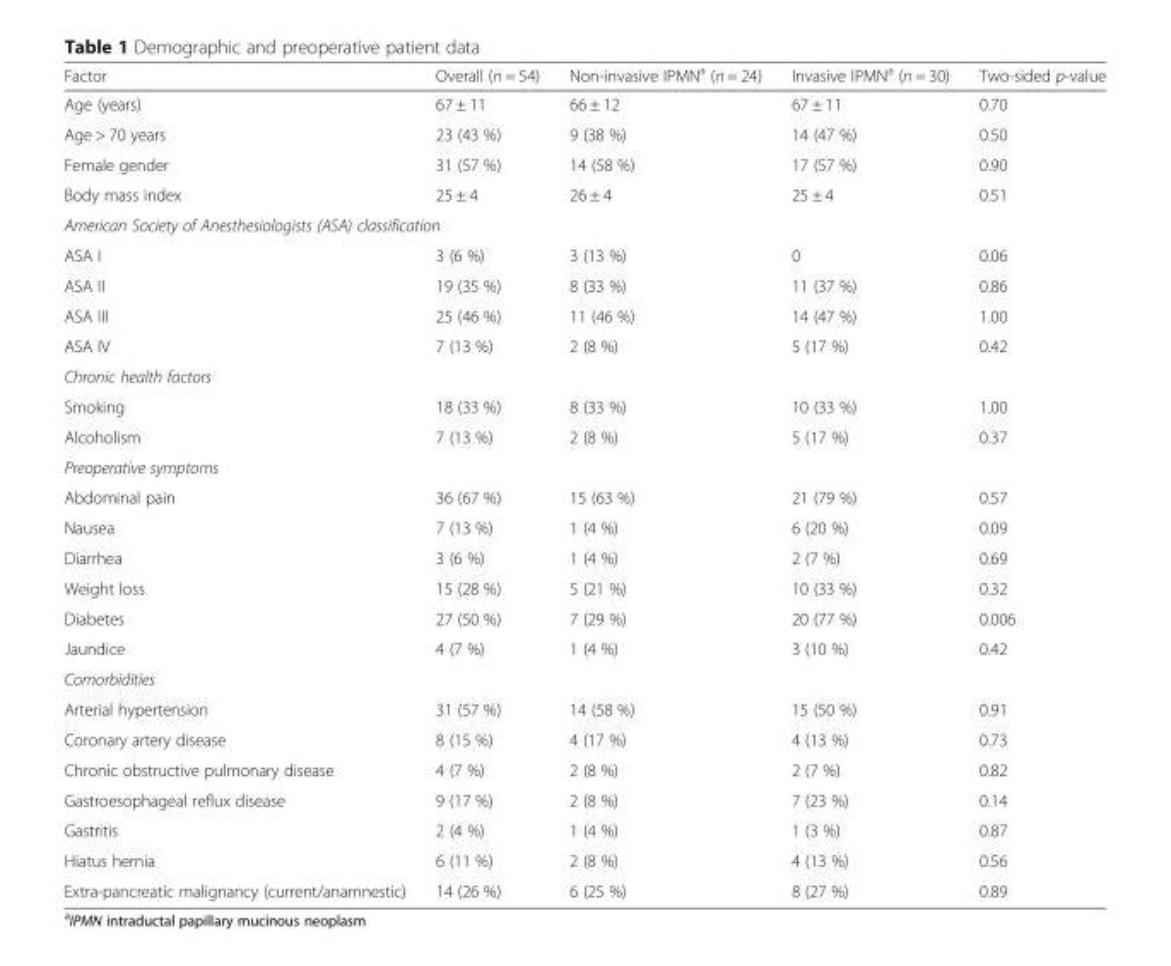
<table><thead><tr><td>Factor</td><td>Overall (n = 54)</td><td>Non-invasive IPMN<sup>a</sup> (n = 24)</td><td>Invasive IPMN<sup>a</sup> (n = 30)</td><td>Two-sided p-value</td></tr></thead><tbody><tr><td>Age (years)</td><td>67 ± 11</td><td>66 ± 12</td><td>67 ± 11</td><td>0.70</td></tr><tr><td>Age &gt; 70 years</td><td>23 (43 %)</td><td>9 (38 %)</td><td>14 (47 %)</td><td>0.50</td></tr><tr><td>Female gender</td><td>31 (57 %)</td><td>14 (58 %)</td><td>17 (57 %)</td><td>0.90</td></tr><tr><td>Body mass index</td><td>25 ± 4</td><td>26 ± 4</td><td>25 ± 4</td><td>0.51</td></tr><tr><td colspan="5">American Society of Anesthesiologists (ASA) classification</td></tr><tr><td>ASA I</td><td>3 (6 %)</td><td>3 (13 %)</td><td>0</td><td>0.06</td></tr><tr><td>ASA II</td><td>19 (35 %)</td><td>8 (33 %)</td><td>11 (37 %)</td><td>0.86</td></tr><tr><td>ASA III</td><td>25 (46 %)</td><td>11 (46 %)</td><td>14 (47 %)</td><td>1.00</td></tr><tr><td>ASA IV</td><td>7 (13 %)</td><td>2 (8 %)</td><td>5 (17 %)</td><td>0.42</td></tr><tr><td colspan="5">Chronic health factors</td></tr><tr><td>Smoking</td><td>18 (33 %)</td><td>8 (33 %)</td><td>10 (33 %)</td><td>1.00</td></tr><tr><td>Alcoholism</td><td>7 (13 %)</td><td>2 (8 %)</td><td>5 (17 %)</td><td>0.37</td></tr><tr><td colspan="5">Preoperative symptoms</td></tr><tr><td>Abdominal pain</td><td>36 (67 %)</td><td>15 (63 %)</td><td>21 (79 %)</td><td>0.57</td></tr><tr><td>Nausea</td><td>7 (13 %)</td><td>1 (4 %)</td><td>6 (20 %)</td><td>0.09</td></tr><tr><td>Diarrhea</td><td>3 (6 %)</td><td>1 (4 %)</td><td>2 (7 %)</td><td>0.69</td></tr><tr><td>Weight loss</td><td>15 (28 %)</td><td>5 (21 %)</td><td>10 (33 %)</td><td>0.32</td></tr><tr><td>Diabetes</td><td>27 (50 %)</td><td>7 (29 %)</td><td>20 (77 %)</td><td>0.006</td></tr><tr><td>Jaundice</td><td>4 (7 %)</td><td>1 (4 %)</td><td>3 (10 %)</td><td>0.42</td></tr><tr><td colspan="5">Comorbidities</td></tr><tr><td>Arterial hypertension</td><td>31 (57 %)</td><td>14 (58 %)</td><td>15 (50 %)</td><td>0.91</td></tr><tr><td>Coronary artery disease</td><td>8 (15 %)</td><td>4 (17 %)</td><td>4 (13 %)</td><td>0.73</td></tr><tr><td>Chronic obstructive pulmonary disease</td><td>4 (7 %)</td><td>2 (8 %)</td><td>2 (7 %)</td><td>0.82</td></tr><tr><td>Gastroesophageal reflux disease</td><td>9 (17 %)</td><td>2 (8 %)</td><td>7 (23 %)</td><td>0.14</td></tr><tr><td>Gastritis</td><td>2 (4 %)</td><td>1 (4 %)</td><td>1 (3 %)</td><td>0.87</td></tr><tr><td>Hiatus hernia</td><td>6 (11 %)</td><td>2 (8 %)</td><td>4 (13 %)</td><td>0.56</td></tr><tr><td>Extra-pancreatic malignancy (current/anamnestic)</td><td>14 (26 %)</td><td>6 (25 %)</td><td>8 (27 %)</td><td>0.89</td></tr></tbody></table>